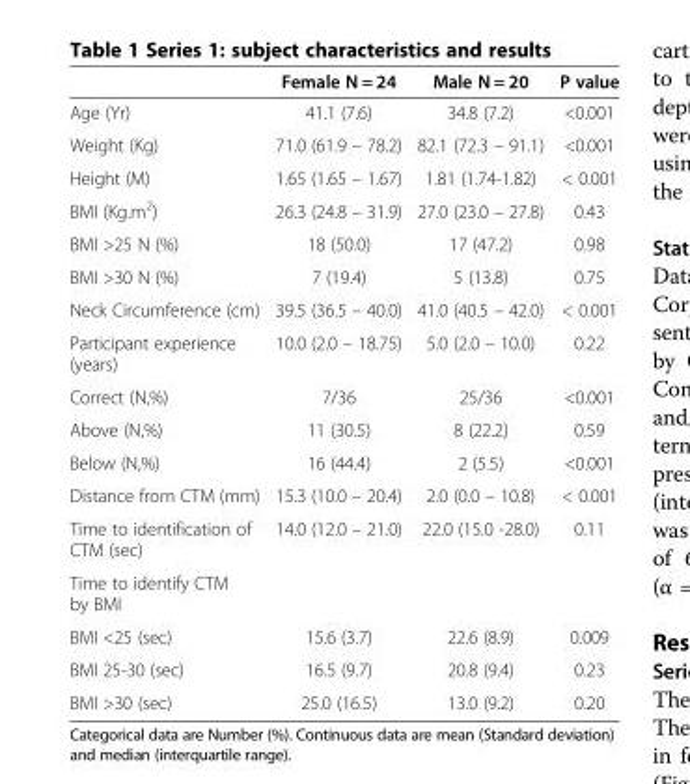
<table><thead><tr><td></td><td>Female N = 24</td><td>Male N = 20</td><td>P value</td></tr></thead><tbody><tr><td>Age (Yr)</td><td>41.1 (7.6)</td><td>34.8 (7.2)</td><td>&lt;0.001</td></tr><tr><td>Weight (Kg)</td><td>71.0 (61.9 – 78.2)</td><td>82.1 (72.3 – 91.1)</td><td>&lt;0.001</td></tr><tr><td>Height (M)</td><td>1.65 (1.65 – 1.67)</td><td>1.81 (1.74-1.82)</td><td>&lt; 0.001</td></tr><tr><td>BMI (Kg.m<sup>2</sup>)</td><td>26.3 (24.8 – 31.9)</td><td>27.0 (23.0 – 27.8)</td><td>0.43</td></tr><tr><td>BMI &gt;25 N (%)</td><td>18 (50.0)</td><td>17 (47.2)</td><td>0.98</td></tr><tr><td>BMI &gt;30 N (%)</td><td>7 (19.4)</td><td>5 (13.8)</td><td>0.75</td></tr><tr><td>Neck Circumference (cm)</td><td>39.5 (36.5 – 40.0)</td><td>41.0 (40.5 – 42.0)</td><td>&lt; 0.001</td></tr><tr><td>Participant experience (years)</td><td>10.0 (2.0 – 18.75)</td><td>5.0 (2.0 – 10.0)</td><td>0.22</td></tr><tr><td>Correct (N,%)</td><td>7/36</td><td>25/36</td><td>&lt;0.001</td></tr><tr><td>Above (N,%)</td><td>11 (30.5)</td><td>8 (22.2)</td><td>0.59</td></tr><tr><td>Below (N,%)</td><td>16 (44.4)</td><td>2 (5.5)</td><td>&lt;0.001</td></tr><tr><td>Distance from CTM (mm)</td><td>15.3 (10.0 – 20.4)</td><td>2.0 (0.0 – 10.8)</td><td>&lt; 0.001</td></tr><tr><td>Time to identification of CTM (sec)</td><td>14.0 (12.0 – 21.0)</td><td>22.0 (15.0 -28.0)</td><td>0.11</td></tr><tr><td colspan="4">Time to identify CTM by BMI</td></tr><tr><td>BMI &lt;25 (sec)</td><td>15.6 (3.7)</td><td>22.6 (8.9)</td><td>0.009</td></tr><tr><td>BMI 25-30 (sec)</td><td>16.5 (9.7)</td><td>20.8 (9.4)</td><td>0.23</td></tr><tr><td>BMI &gt;30 (sec)</td><td>25.0 (16.5)</td><td>13.0 (9.2)</td><td>0.20</td></tr></tbody></table>